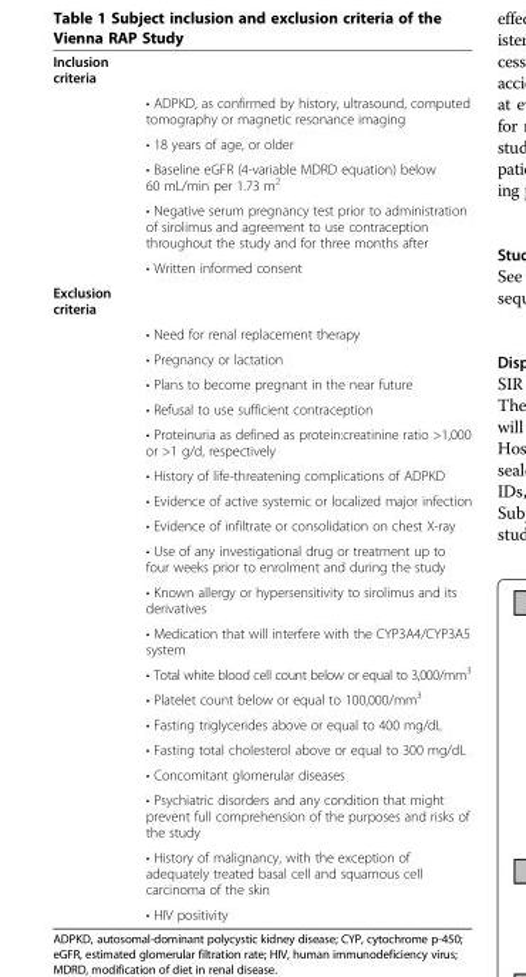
<table><tbody><tr><td colspan="2">Inclusion criteria</td></tr><tr><td></td><td>• ADPKD, as confirmed by history, ultrasound, computed tomography or magnetic resonance imaging</td></tr><tr><td></td><td>• 18 years of age, or older</td></tr><tr><td></td><td>• Baseline eGFR (4-variable MDRD equation) below 60 mL/min per 1.73 m<sup>2</sup></td></tr><tr><td></td><td>• Negative serum pregnancy test prior to administration of sirolimus and agreement to use contraception throughout the study and for three months after</td></tr><tr><td></td><td>• Written informed consent</td></tr><tr><td colspan="2">Exclusion criteria</td></tr><tr><td></td><td>• Need for renal replacement therapy</td></tr><tr><td></td><td>• Pregnancy or lactation</td></tr><tr><td></td><td>• Plans to become pregnant in the near future</td></tr><tr><td></td><td>• Refusal to use sufficient contraception</td></tr><tr><td></td><td>• Proteinuria as defined as protein:creatinine ratio &gt;1,000 or &gt;1 g/d, respectively</td></tr><tr><td></td><td>• History of life-threatening complications of ADPKD</td></tr><tr><td></td><td>• Evidence of active systemic or localized major infection</td></tr><tr><td></td><td>• Evidence of infiltrate or consolidation on chest X-ray</td></tr><tr><td></td><td>• Use of any investigational drug or treatment up to four weeks prior to enrolment and during the study</td></tr><tr><td></td><td>• Known allergy or hypersensitivity to sirolimus and its derivatives</td></tr><tr><td></td><td>• Medication that will interfere with the CYP3A4/CYP3A5 system</td></tr><tr><td></td><td>• Total white blood cell count below or equal to 3,000/mm<sup>3</sup></td></tr><tr><td></td><td>• Platelet count below or equal to 100,000/mm<sup>3</sup></td></tr><tr><td></td><td>• Fasting triglycerides above or equal to 400 mg/dL</td></tr><tr><td></td><td>• Fasting total cholesterol above or equal to 300 mg/dL</td></tr><tr><td></td><td>• Concomitant glomerular diseases</td></tr><tr><td></td><td>• Psychiatric disorders and any condition that might prevent full comprehension of the purposes and risks of the study</td></tr><tr><td></td><td>• History of malignancy, with the exception of adequately treated basal cell and squamous cell carcinoma of the skin</td></tr><tr><td></td><td>• HIV positivity</td></tr></tbody></table>